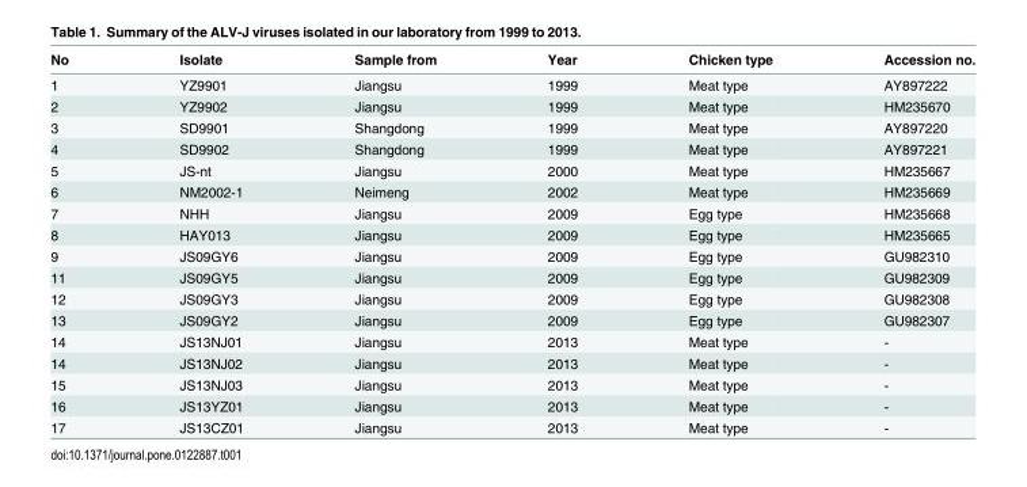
<table><thead><tr><td>No</td><td>Isolate</td><td>Sample from</td><td>Year</td><td>Chicken type</td><td>Accession no.</td></tr></thead><tbody><tr><td>1</td><td>YZ9901</td><td>Jiangsu</td><td>1999</td><td>Meat type</td><td>AY897222</td></tr><tr><td>2</td><td>YZ9902</td><td>Jiangsu</td><td>1999</td><td>Meat type</td><td>HM235670</td></tr><tr><td>3</td><td>SD9901</td><td>Shangdong</td><td>1999</td><td>Meat type</td><td>AY897220</td></tr><tr><td>4</td><td>SD9902</td><td>Shangdong</td><td>1999</td><td>Meat type</td><td>AY897221</td></tr><tr><td>5</td><td>JS-nt</td><td>Jiangsu</td><td>2000</td><td>Meat type</td><td>HM235667</td></tr><tr><td>6</td><td>NM2002-1</td><td>Neimeng</td><td>2002</td><td>Meat type</td><td>HM235669</td></tr><tr><td>7</td><td>NHH</td><td>Jiangsu</td><td>2009</td><td>Egg type</td><td>HM235668</td></tr><tr><td>8</td><td>HAY013</td><td>Jiangsu</td><td>2009</td><td>Egg type</td><td>HM235665</td></tr><tr><td>9</td><td>JS09GY6</td><td>Jiangsu</td><td>2009</td><td>Egg type</td><td>GU982310</td></tr><tr><td>11</td><td>JS09GY5</td><td>Jiangsu</td><td>2009</td><td>Egg type</td><td>GU982309</td></tr><tr><td>12</td><td>JS09GY3</td><td>Jiangsu</td><td>2009</td><td>Egg type</td><td>GU982308</td></tr><tr><td>13</td><td>JS09GY2</td><td>Jiangsu</td><td>2009</td><td>Egg type</td><td>GU982307</td></tr><tr><td>14</td><td>JS13NJ01</td><td>Jiangsu</td><td>2013</td><td>Meat type</td><td>-</td></tr><tr><td>14</td><td>JS13NJ02</td><td>Jiangsu</td><td>2013</td><td>Meat type</td><td>-</td></tr><tr><td>15</td><td>JS13NJ03</td><td>Jiangsu</td><td>2013</td><td>Meat type</td><td>-</td></tr><tr><td>16</td><td>JS13YZ01</td><td>Jiangsu</td><td>2013</td><td>Meat type</td><td>-</td></tr><tr><td>17</td><td>JS13CZ01</td><td>Jiangsu</td><td>2013</td><td>Meat type</td><td>-</td></tr></tbody></table>